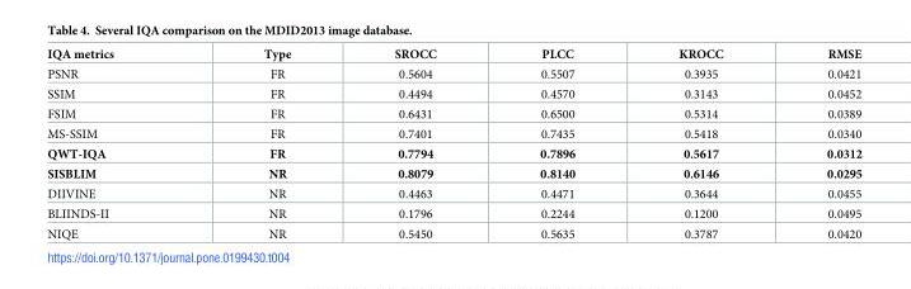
<table><thead><tr><td>IQA metrics</td><td>Type</td><td>SROCC</td><td>PLCC</td><td>KROCC</td><td>RMSE</td></tr></thead><tbody><tr><td>PSNR</td><td>FR</td><td>0.5604</td><td>0.5507</td><td>0.3935</td><td>0.0421</td></tr><tr><td>SSIM</td><td>FR</td><td>0.4494</td><td>0.4570</td><td>0.3143</td><td>0.0452</td></tr><tr><td>FSIM</td><td>FR</td><td>0.6431</td><td>0.6500</td><td>0.5314</td><td>0.0389</td></tr><tr><td>MS-SSIM</td><td>FR</td><td>0.7401</td><td>0.7435</td><td>0.5418</td><td>0.0340</td></tr><tr><td>QWT-IQA</td><td>FR</td><td>0.7794</td><td>0.7896</td><td>0.5617</td><td>0.0312</td></tr><tr><td>SISBLIM</td><td>NR</td><td>0.8079</td><td>0.8140</td><td>0.6146</td><td>0.0295</td></tr><tr><td>DIIVINE</td><td>NR</td><td>0.4463</td><td>0.4471</td><td>0.3644</td><td>0.0455</td></tr><tr><td>BLIINDS-II</td><td>NR</td><td>0.1796</td><td>0.2244</td><td>0.1200</td><td>0.0495</td></tr><tr><td>NIQE</td><td>NR</td><td>0.5450</td><td>0.5635</td><td>0.3787</td><td>0.0420</td></tr></tbody></table>